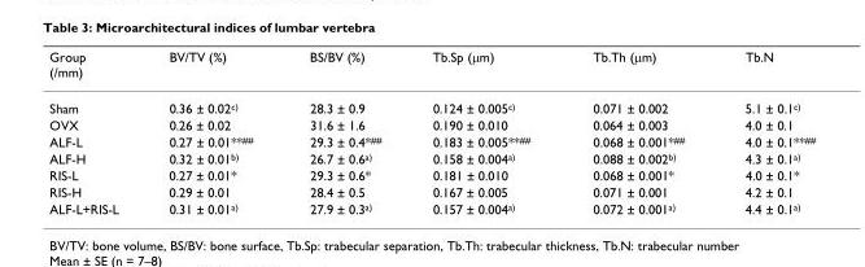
<table><thead><tr><td>Group (/mm)</td><td>BV/TV (%)</td><td>BS/BV (%)</td><td>Tb.Sp (μm)</td><td>Tb.Th (μm)</td><td>Tb.N</td></tr></thead><tbody><tr><td>Sham</td><td>0.36 ± 0.02<sup>c)</sup></td><td>28.3 ± 0.9</td><td>0.124 ± 0.005<sup>c)</sup></td><td>0.071 ± 0.002</td><td>5.1 ± 0.1<sup>c)</sup></td></tr><tr><td>OVX</td><td>0.26 ± 0.02</td><td>31.6 ± 1.6</td><td>0.190 ± 0.010</td><td>0.064 ± 0.003</td><td>4.0 ± 0.1</td></tr><tr><td>ALF-L</td><td>0.27 ± 0.01**<sup>##</sup></td><td>29.3 ± 0.4*<sup>##</sup></td><td>0.183 ± 0.005**<sup>##</sup></td><td>0.068 ± 0.001*<sup>##</sup></td><td>4.0 ± 0.1**<sup>##</sup></td></tr><tr><td>ALF-H</td><td>0.32 ± 0.01<sup>b)</sup></td><td>26.7 ± 0.6<sup>a)</sup></td><td>0.158 ± 0.004<sup>a)</sup></td><td>0.088 ± 0.002<sup>b)</sup></td><td>4.3 ± 0.1<sup>a)</sup></td></tr><tr><td>RIS-L</td><td>0.27 ± 0.01*</td><td>29.3 ± 0.6*</td><td>0.181 ± 0.010</td><td>0.068 ± 0.001*</td><td>4.0 ± 0.1*</td></tr><tr><td>RIS-H</td><td>0.29 ± 0.01</td><td>28.4 ± 0.5</td><td>0.167 ± 0.005</td><td>0.071 ± 0.001</td><td>4.2 ± 0.1</td></tr><tr><td>ALF-L+RIS-L</td><td>0.31 ± 0.01<sup>a)</sup></td><td>27.9 ± 0.3<sup>a)</sup></td><td>0.157 ± 0.004<sup>a)</sup></td><td>0.072 ± 0.001<sup>a)</sup></td><td>4.4 ± 0.1<sup>a)</sup></td></tr></tbody></table>